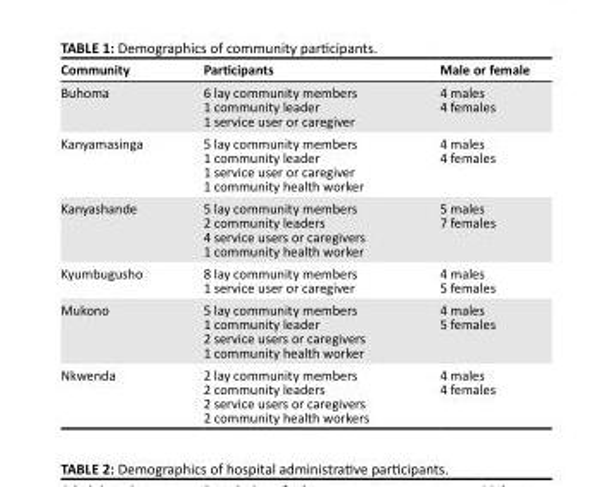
<table><thead><tr><td>Community</td><td>Participants</td><td>Male or female</td></tr></thead><tbody><tr><td>Buhoma</td><td>6 lay community members 1 community leader 1 service user or caregiver</td><td>4 males 4 females</td></tr><tr><td>Kanyamasinga</td><td>5 lay community members 1 community leader 1 service user or caregiver 1 community health worker</td><td>4 males 4 females</td></tr><tr><td>Kanyashande</td><td>5 lay community members 2 community leaders 4 service users or caregivers 1 community health worker</td><td>5 males 7 females</td></tr><tr><td>Kyumbugusho</td><td>8 lay community members 1 service user or caregiver</td><td>4 males 5 females</td></tr><tr><td>Mukono</td><td>5 lay community members 1 community leader 2 service users or caregivers 1 community health worker</td><td>4 males 5 females</td></tr><tr><td>Nkwenda</td><td>2 lay community members 2 community leaders 2 service users or caregivers 2 community health workers</td><td>4 males 4 females</td></tr></tbody></table>